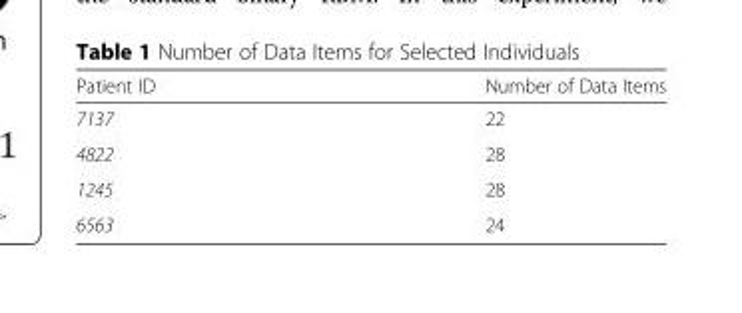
<table><thead><tr><td>Patient ID</td><td>Number of Data Items</td></tr></thead><tbody><tr><td>7137</td><td>22</td></tr><tr><td>4822</td><td>28</td></tr><tr><td>1245</td><td>28</td></tr><tr><td>6563</td><td>24</td></tr></tbody></table>